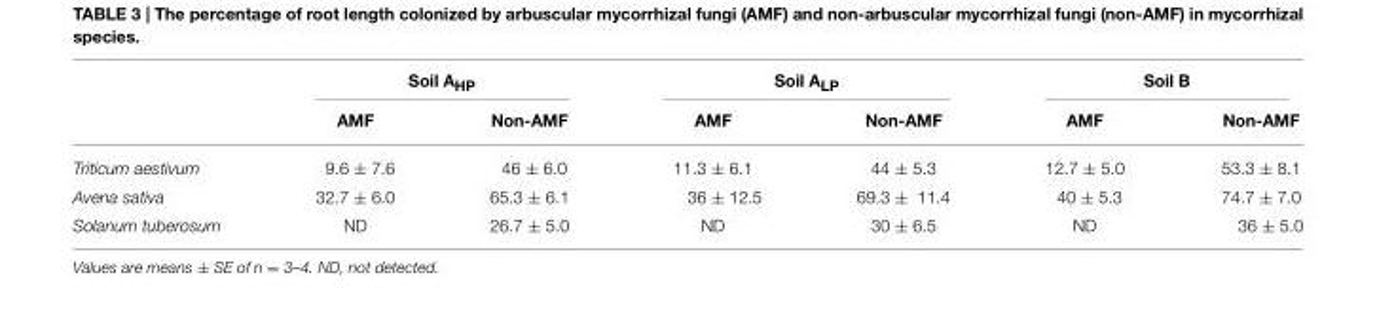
<table><thead><tr><td rowspan="2"></td><td colspan="2">Soil A<sub>HP</sub></td><td colspan="2">Soil A<sub>LP</sub></td><td colspan="2">Soil B</td></tr><tr><td>AMF</td><td>Non-AMF</td><td>AMF</td><td>Non-AMF</td><td>AMF</td><td>Non-AMF</td></tr></thead><tbody><tr><td>Triticum aestivum</td><td>9.6 ± 7.6</td><td>46 ± 6.0</td><td>11.3 ± 6.1</td><td>44 ± 5.3</td><td>12.7 ± 5.0</td><td>53.3 ± 8.1</td></tr><tr><td>Avena sativa</td><td>32.7 ± 6.0</td><td>65.3 ± 6.1</td><td>36 ± 12.5</td><td>69.3 ± 11.4</td><td>40 ± 5.3</td><td>74.7 ± 7.0</td></tr><tr><td>Solanum tuberosum</td><td>ND</td><td>26.7 ± 5.0</td><td>ND</td><td>30 ± 6.5</td><td>ND</td><td>36 ± 5.0</td></tr></tbody></table>